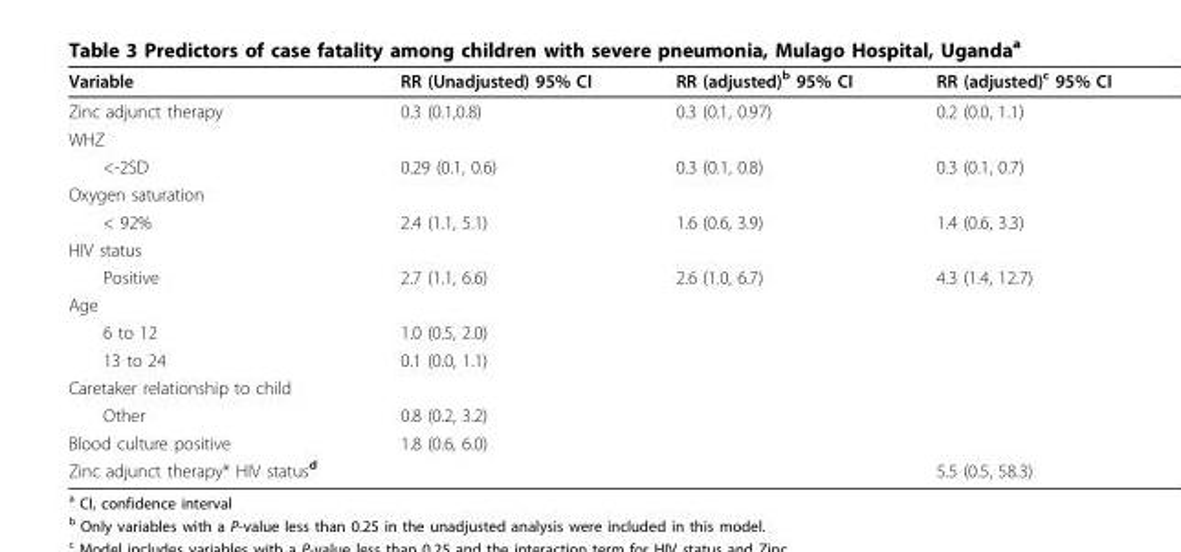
<table><thead><tr><td>Variable</td><td>RR (Unadjusted) 95% CI</td><td>RR (adjusted)<sup>b</sup> 95% CI</td><td>RR (adjusted)<sup>c</sup> 95% CI</td></tr></thead><tbody><tr><td>Zinc adjunct therapy</td><td>0.3 (0.1,0.8)</td><td>0.3 (0.1, 0.97)</td><td>0.2 (0.0, 1.1)</td></tr><tr><td colspan="4">WHZ</td></tr><tr><td>&lt;-2SD</td><td>0.29 (0.1, 0.6)</td><td>0.3 (0.1, 0.8)</td><td>0.3 (0.1, 0.7)</td></tr><tr><td colspan="4">Oxygen saturation</td></tr><tr><td>&lt; 92%</td><td>2.4 (1.1, 5.1)</td><td>1.6 (0.6, 3.9)</td><td>1.4 (0.6, 3.3)</td></tr><tr><td colspan="4">HIV status</td></tr><tr><td>Positive</td><td>2.7 (1.1, 6.6)</td><td>2.6 (1.0, 6.7)</td><td>4.3 (1.4, 12.7)</td></tr><tr><td colspan="4">Age</td></tr><tr><td>6 to 12</td><td>1.0 (0.5, 2.0)</td><td></td><td></td></tr><tr><td>13 to 24</td><td>0.1 (0.0, 1.1)</td><td></td><td></td></tr><tr><td colspan="4">Caretaker relationship to child</td></tr><tr><td>Other</td><td>0.8 (0.2, 3.2)</td><td></td><td></td></tr><tr><td>Blood culture positive</td><td>1.8 (0.6, 6.0)</td><td></td><td></td></tr><tr><td>Zinc adjunct therapy* HIV status<sup>d</sup></td><td></td><td></td><td>5.5 (0.5, 58.3)</td></tr></tbody></table>